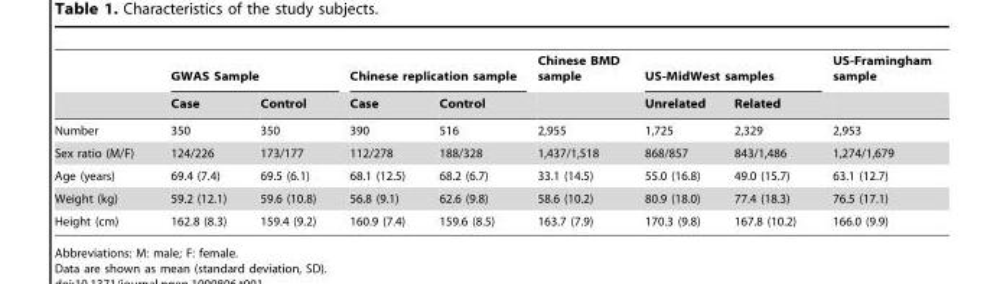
<table><thead><tr><td rowspan="2"></td><td colspan="2">GWAS Sample</td><td colspan="2">Chinese replication sample</td><td rowspan="2">Chinese BMD sample</td><td colspan="2">US-MidWest samples</td><td rowspan="2">US-Framingham sample</td></tr><tr><td>Case</td><td>Control</td><td>Case</td><td>Control</td><td>Unrelated</td><td>Related</td></tr></thead><tbody><tr><td>Number</td><td>350</td><td>350</td><td>390</td><td>516</td><td>2,955</td><td>1,725</td><td>2,329</td><td>2,953</td></tr><tr><td>Sex ratio (M/F)</td><td>124/226</td><td>173/177</td><td>112/278</td><td>188/328</td><td>1,437/1,518</td><td>868/857</td><td>843/1,486</td><td>1,274/1,679</td></tr><tr><td>Age (years)</td><td>69.4 (7.4)</td><td>69.5 (6.1)</td><td>68.1 (12.5)</td><td>68.2 (6.7)</td><td>33.1 (14.5)</td><td>55.0 (16.8)</td><td>49.0 (15.7)</td><td>63.1 (12.7)</td></tr><tr><td>Weight (kg)</td><td>59.2 (12.1)</td><td>59.6 (10.8)</td><td>56.8 (9.1)</td><td>62.6 (9.8)</td><td>58.6 (10.2)</td><td>80.9 (18.0)</td><td>77.4 (18.3)</td><td>76.5 (17.1)</td></tr><tr><td>Height (cm)</td><td>162.8 (8.3)</td><td>159.4 (9.2)</td><td>160.9 (7.4)</td><td>159.6 (8.5)</td><td>163.7 (7.9)</td><td>170.3 (9.8)</td><td>167.8 (10.2)</td><td>166.0 (9.9)</td></tr></tbody></table>